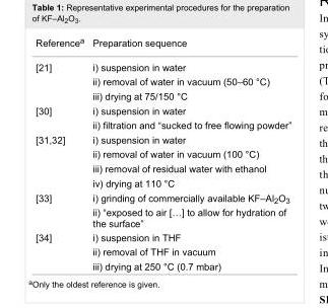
<table><tbody><tr><td>Reference<sup>a</sup></td><td>Preparation sequence</td></tr><tr><td rowspan="3">[21]</td><td>i) suspension in water</td></tr><tr><td>ii) removal of water in vacuum (50–60 °C)</td></tr><tr><td>iii) drying at 75/150 °C</td></tr><tr><td rowspan="2">[30]</td><td>i) suspension in water</td></tr><tr><td>ii) filtration and “sucked to free flowing powder”</td></tr><tr><td rowspan="4">[31–32]</td><td>i) suspension in water</td></tr><tr><td>ii) removal of water in vacuum (100 °C)</td></tr><tr><td>iii) removal of residual water with ethanol</td></tr><tr><td>iv) drying at 110 °C</td></tr><tr><td rowspan="2">[33]</td><td>i) grinding of commercially available KF–Al<sub>2</sub>O<sub>3</sub></td></tr><tr><td>ii) “exposed to air […] to allow for hydration of the surface”</td></tr><tr><td rowspan="3">[34]</td><td>i) suspension in THF</td></tr><tr><td>ii) removal of THF in vacuum</td></tr><tr><td>iii) drying at 250 °C (0.7 mbar)</td></tr></tbody></table>